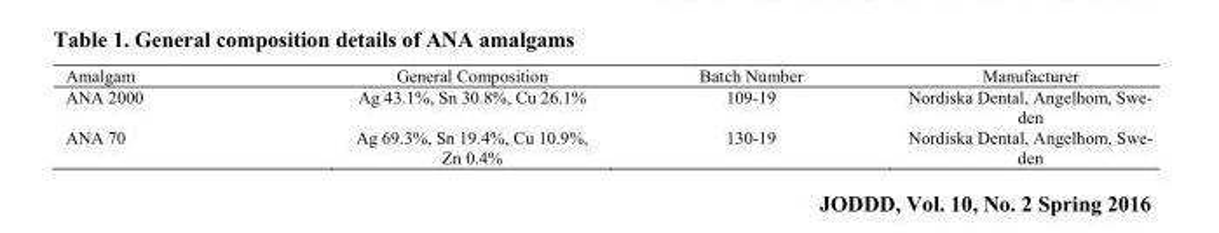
<table><tbody><tr><td>Amalgam</td><td>General Composition</td><td>Batch Number</td><td>Manufacturer</td></tr><tr><td>ANA 2000</td><td>Ag 43.1%, Sn 30.8%, Cu 26.1%</td><td>109-19</td><td>Nordiska Dental, Angelhom, Swe- den</td></tr><tr><td>ANA 70</td><td>Ag 69.3%, Sn 19.4%, Cu 10.9%, Zn 0.4%</td><td>130-19</td><td>Nordiska Dental, Angelhom, Swe- den</td></tr></tbody></table>